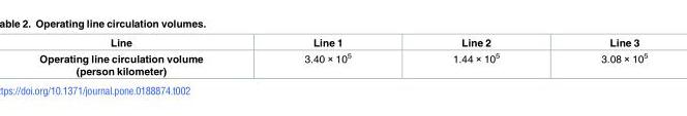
<table><thead><tr><td>Line</td><td>Line 1</td><td>Line 2</td><td>Line 3</td></tr></thead><tbody><tr><td>Operating line circulation volume (person kilometer)</td><td>3.40 × 10<sup>5</sup></td><td>1.44 × 10<sup>5</sup></td><td>3.08 × 10<sup>5</sup></td></tr></tbody></table>